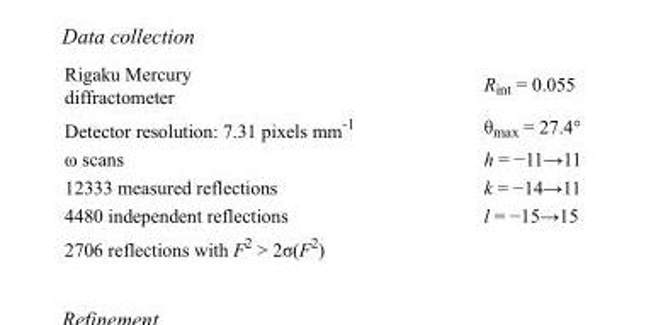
<table><tbody><tr><td>Rigaku Mercury diffractometer</td><td>R<sub>int</sub> = 0.055</td></tr><tr><td>Detector resolution: 7.31 pixels mm<sup>-1</sup></td><td>θ<sub>max</sub> = 27.4°</td></tr><tr><td>ω scans</td><td>h = −11→11</td></tr><tr><td>12333 measured reflections</td><td>k = −14→11</td></tr><tr><td>4480 independent reflections</td><td>l = −15→15</td></tr><tr><td>2706 reflections with F<sup>2</sup> &gt; 2σ(F<sup>2</sup>)</td><td></td></tr></tbody></table>